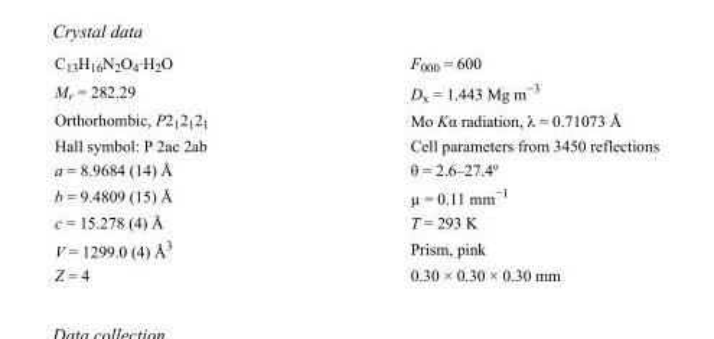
<table><tbody><tr><td>C<sub>13</sub>H<sub>16</sub>N<sub>2</sub>O<sub>4</sub>·H<sub>2</sub>O</td><td>F000 = 600</td></tr><tr><td>M<sub>r</sub> = 282.29</td><td>D<sub>x</sub> = 1.443 Mg m<sup>−3</sup></td></tr><tr><td>Orthorhombic, P2<sub>1</sub>2<sub>1</sub>2<sub>1</sub></td><td>Mo Kα radiation, λ = 0.71073 Å</td></tr><tr><td>Hall symbol: P 2ac 2ab</td><td>Cell parameters from 3450 reflections</td></tr><tr><td>a = 8.9684 (14) Å</td><td>θ = 2.6–27.4º</td></tr><tr><td>b = 9.4809 (15) Å</td><td>µ = 0.11 mm<sup>−1</sup></td></tr><tr><td>c = 15.278 (4) Å</td><td>T = 293 K</td></tr><tr><td>V = 1299.0 (4) Å<sup>3</sup></td><td>Prism, pink</td></tr><tr><td>Z = 4</td><td>0.30 × 0.30 × 0.30 mm</td></tr></tbody></table>